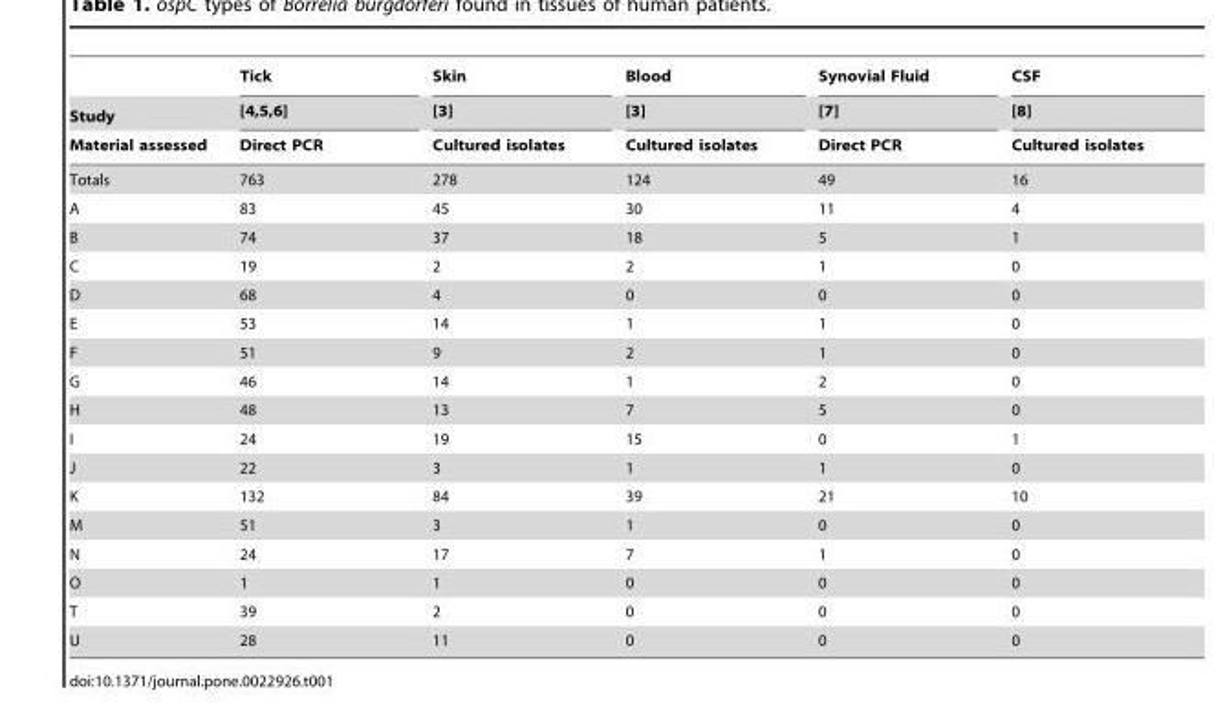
<table><thead><tr><td rowspan="3">Study Material assessed</td><td rowspan="3">Tick [4,5,6] Direct PCR</td><td rowspan="3">Skin [3] Cultured isolates</td><td rowspan="3">Blood [3] Cultured isolates</td><td rowspan="3">Synovial Fluid [7] Direct PCR</td><td rowspan="3">CSF [8] Cultured isolates</td></tr><tr></tr><tr></tr></thead><tbody><tr><td>Totals</td><td>763</td><td>278</td><td>124</td><td>49</td><td>16</td></tr><tr><td>A</td><td>83</td><td>45</td><td>30</td><td>11</td><td>4</td></tr><tr><td>B</td><td>74</td><td>37</td><td>18</td><td>5</td><td>1</td></tr><tr><td>C</td><td>19</td><td>2</td><td>2</td><td>1</td><td>0</td></tr><tr><td>D</td><td>68</td><td>4</td><td>0</td><td>0</td><td>0</td></tr><tr><td>E</td><td>53</td><td>14</td><td>1</td><td>1</td><td>0</td></tr><tr><td>F</td><td>51</td><td>9</td><td>2</td><td>1</td><td>0</td></tr><tr><td>G</td><td>46</td><td>14</td><td>1</td><td>2</td><td>0</td></tr><tr><td>H</td><td>48</td><td>13</td><td>7</td><td>5</td><td>0</td></tr><tr><td>I</td><td>24</td><td>19</td><td>15</td><td>0</td><td>1</td></tr><tr><td>J</td><td>22</td><td>3</td><td>1</td><td>1</td><td>0</td></tr><tr><td>K</td><td>132</td><td>84</td><td>39</td><td>21</td><td>10</td></tr><tr><td>M</td><td>51</td><td>3</td><td>1</td><td>0</td><td>0</td></tr><tr><td>N</td><td>24</td><td>17</td><td>7</td><td>1</td><td>0</td></tr><tr><td>O</td><td>1</td><td>1</td><td>0</td><td>0</td><td>0</td></tr><tr><td>T</td><td>39</td><td>2</td><td>0</td><td>0</td><td>0</td></tr><tr><td>U</td><td>28</td><td>11</td><td>0</td><td>0</td><td>0</td></tr></tbody></table>